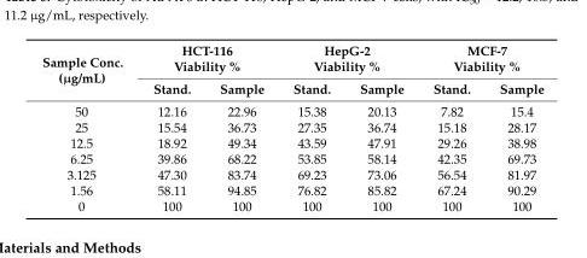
<table><thead><tr><td rowspan="2">Sample Conc. (µg/mL)</td><td colspan="2">HCT-116 Viability %</td><td colspan="2">HepG-2 Viability %</td><td colspan="2">MCF-7 Viability %</td></tr><tr><td>Stand.</td><td>Sample</td><td>Stand.</td><td>Sample</td><td>Stand.</td><td>Sample</td></tr></thead><tbody><tr><td>50</td><td>12.16</td><td>22.96</td><td>15.38</td><td>20.13</td><td>7.82</td><td>15.4</td></tr><tr><td>25</td><td>15.54</td><td>36.73</td><td>27.35</td><td>36.74</td><td>15.18</td><td>28.17</td></tr><tr><td>12.5</td><td>18.92</td><td>49.34</td><td>43.59</td><td>47.91</td><td>29.26</td><td>38.98</td></tr><tr><td>6.25</td><td>39.86</td><td>68.22</td><td>53.85</td><td>58.14</td><td>42.35</td><td>69.73</td></tr><tr><td>3.125</td><td>47.30</td><td>83.74</td><td>69.23</td><td>73.06</td><td>56.54</td><td>81.97</td></tr><tr><td>1.56</td><td>58.11</td><td>94.85</td><td>76.82</td><td>85.82</td><td>67.24</td><td>90.29</td></tr><tr><td>0</td><td>100</td><td>100</td><td>100</td><td>100</td><td>100</td><td>100</td></tr></tbody></table>